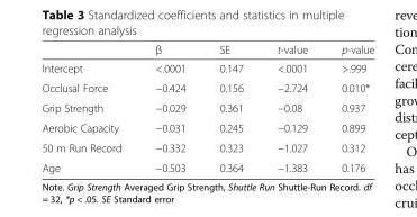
<table><thead><tr><td></td><td>β</td><td>SE</td><td>t-value</td><td>p-value</td></tr></thead><tbody><tr><td>Intercept</td><td>&lt;.0001</td><td>0.147</td><td>&lt;.0001</td><td>&gt;.999</td></tr><tr><td>Occlusal Force</td><td>−0.424</td><td>0.156</td><td>−2.724</td><td>0.010*</td></tr><tr><td>Grip Strength</td><td>−0.029</td><td>0.361</td><td>−0.08</td><td>0.937</td></tr><tr><td>Aerobic Capacity</td><td>−0.031</td><td>0.245</td><td>−0.129</td><td>0.899</td></tr><tr><td>50 m Run Record</td><td>−0.332</td><td>0.323</td><td>−1.027</td><td>0.312</td></tr><tr><td>Age</td><td>−0.503</td><td>0.364</td><td>−1.383</td><td>0.176</td></tr></tbody></table>